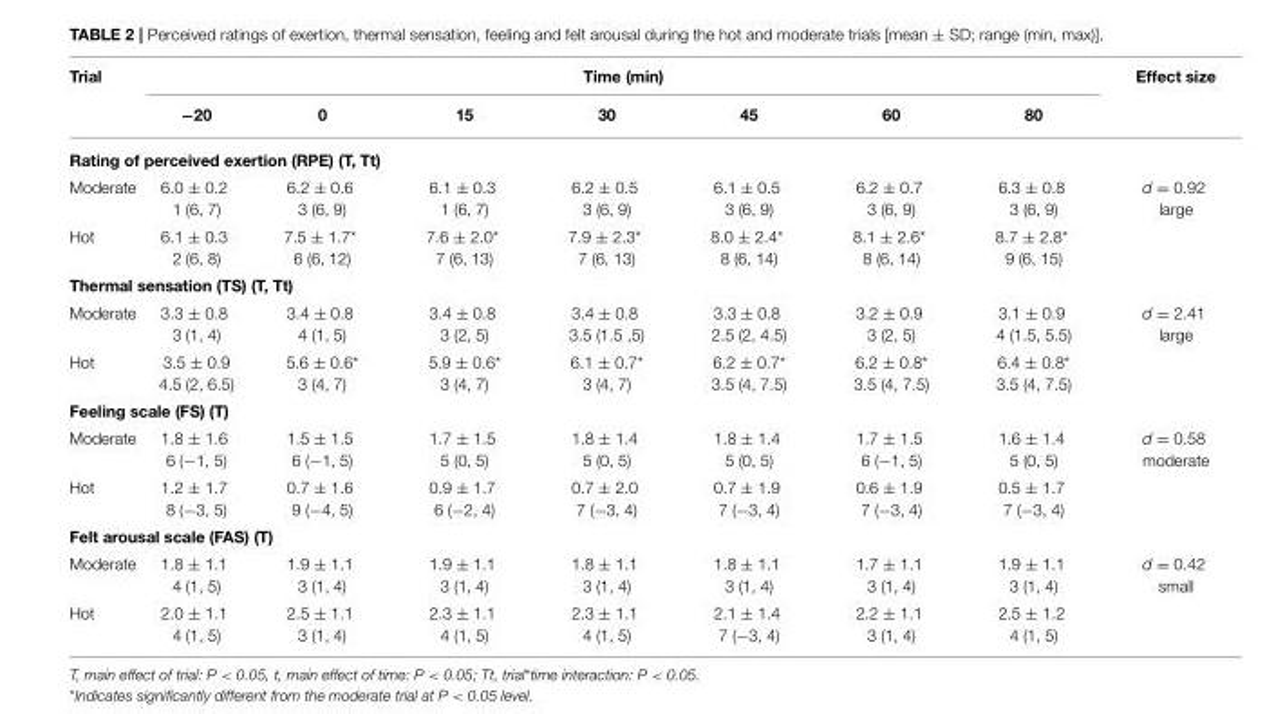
<table><thead><tr><td rowspan="2">Trial</td><td colspan="7">Time (min)</td><td rowspan="2">Effect size</td></tr><tr><td>−20</td><td>0</td><td>15</td><td>30</td><td>45</td><td>60</td><td>80</td></tr></thead><tbody><tr><td colspan="9">Rating of perceived exertion (RPE) (T, Tt)</td></tr><tr><td>Moderate</td><td>6.0 ± 0.2 1 (6, 7)</td><td>6.2 ± 0.6 3 (6, 9)</td><td>6.1 ± 0.3 1 (6, 7)</td><td>6.2 ± 0.5 3 (6, 9)</td><td>6.1 ± 0.5 3 (6, 9)</td><td>6.2 ± 0.7 3 (6, 9)</td><td>6.3 ± 0.8 3 (6, 9)</td><td>d = 0.92 large</td></tr><tr><td>Hot</td><td>6.1 ± 0.3 2 (6, 8)</td><td>7.5 ± 1.7* 6 (6, 12)</td><td>7.6 ± 2.0* 7 (6, 13)</td><td>7.9 ± 2.3* 7 (6, 13)</td><td>8.0 ± 2.4* 8 (6, 14)</td><td>8.1 ± 2.6* 8 (6, 14)</td><td>8.7 ± 2.8* 9 (6, 15)</td><td></td></tr><tr><td colspan="9">Thermal sensation (TS) (T, Tt)</td></tr><tr><td>Moderate</td><td>3.3 ± 0.8 3 (1, 4)</td><td>3.4 ± 0.8 4 (1, 5)</td><td>3.4 ± 0.8 3 (2, 5)</td><td>3.4 ± 0.8 3.5 (1.5 ,5)</td><td>3.3 ± 0.8 2.5 (2, 4.5)</td><td>3.2 ± 0.9 3 (2, 5)</td><td>3.1 ± 0.9 4 (1.5, 5.5)</td><td>d = 2.41 large</td></tr><tr><td>Hot</td><td>3.5 ± 0.9 4.5 (2, 6.5)</td><td>5.6 ± 0.6* 3 (4, 7)</td><td>5.9 ± 0.6* 3 (4, 7)</td><td>6.1 ± 0.7* 3 (4, 7)</td><td>6.2 ± 0.7* 3.5 (4, 7.5)</td><td>6.2 ± 0.8* 3.5 (4, 7.5)</td><td>6.4 ± 0.8* 3.5 (4, 7.5)</td><td></td></tr><tr><td colspan="9">Feeling scale (FS) (T)</td></tr><tr><td>Moderate</td><td>1.8 ± 1.6 6 (−1, 5)</td><td>1.5 ± 1.5 6 (−1, 5)</td><td>1.7 ± 1.5 5 (0, 5)</td><td>1.8 ± 1.4 5 (0, 5)</td><td>1.8 ± 1.4 5 (0, 5)</td><td>1.7 ± 1.5 6 (−1, 5)</td><td>1.6 ± 1.4 5 (0, 5)</td><td>d = 0.58 moderate</td></tr><tr><td>Hot</td><td>1.2 ± 1.7 8 (−3, 5)</td><td>0.7 ± 1.6 9 (−4, 5)</td><td>0.9 ± 1.7 6 (−2, 4)</td><td>0.7 ± 2.0 7 (−3, 4)</td><td>0.7 ± 1.9 7 (−3, 4)</td><td>0.6 ± 1.9 7 (−3, 4)</td><td>0.5 ± 1.7 7 (−3, 4)</td><td></td></tr><tr><td colspan="9">Felt arousal scale (FAS) (T)</td></tr><tr><td>Moderate</td><td>1.8 ± 1.1 4 (1, 5)</td><td>1.9 ± 1.1 3 (1, 4)</td><td>1.9 ± 1.1 3 (1, 4)</td><td>1.8 ± 1.1 3 (1, 4)</td><td>1.8 ± 1.1 3 (1, 4)</td><td>1.7 ± 1.1 3 (1, 4)</td><td>1.9 ± 1.1 3 (1, 4)</td><td>d = 0.42 small</td></tr><tr><td>Hot</td><td>2.0 ± 1.1 4 (1, 5)</td><td>2.5 ± 1.1 3 (1, 4)</td><td>2.3 ± 1.1 4 (1, 5)</td><td>2.3 ± 1.1 4 (1, 5)</td><td>2.1 ± 1.4 7 (−3, 4)</td><td>2.2 ± 1.1 3 (1, 4)</td><td>2.5 ± 1.2 4 (1, 5)</td><td></td></tr></tbody></table>